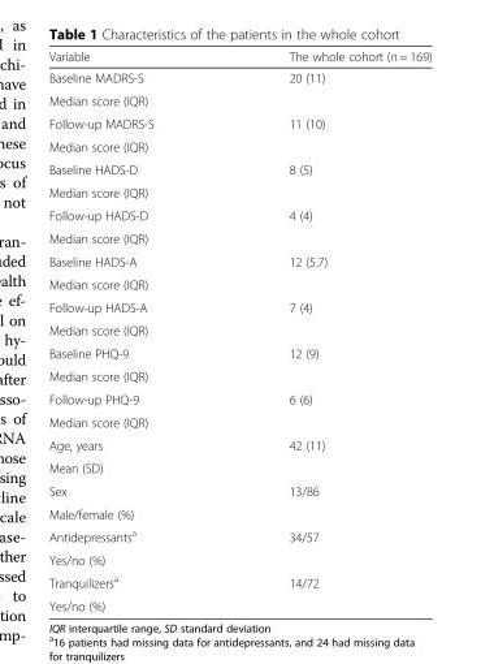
<table><thead><tr><td>Variable</td><td>The whole cohort (n = 169)</td></tr></thead><tbody><tr><td>Baseline MADRS-S</td><td>20 (11)</td></tr><tr><td colspan="2">Median score (IQR)</td></tr><tr><td>Follow-up MADRS-S</td><td>11 (10)</td></tr><tr><td colspan="2">Median score (IQR)</td></tr><tr><td>Baseline HADS-D</td><td>8 (5)</td></tr><tr><td colspan="2">Median score (IQR)</td></tr><tr><td>Follow-up HADS-D</td><td>4 (4)</td></tr><tr><td colspan="2">Median score (IQR)</td></tr><tr><td>Baseline HADS-A</td><td>12 (5.7)</td></tr><tr><td colspan="2">Median score (IQR)</td></tr><tr><td>Follow-up HADS-A</td><td>7 (4)</td></tr><tr><td colspan="2">Median score (IQR)</td></tr><tr><td>Baseline PHQ-9</td><td>12 (9)</td></tr><tr><td colspan="2">Median score (IQR)</td></tr><tr><td>Follow-up PHQ-9</td><td>6 (6)</td></tr><tr><td colspan="2">Median score (IQR)</td></tr><tr><td>Age, years</td><td>42 (11)</td></tr><tr><td colspan="2">Mean (SD)</td></tr><tr><td>Sex</td><td>13/86</td></tr><tr><td colspan="2">Male/female (%)</td></tr><tr><td>Antidepressants<sup>a</sup></td><td>34/57</td></tr><tr><td colspan="2">Yes/no (%)</td></tr><tr><td>Tranquilizers<sup>a</sup></td><td>14/72</td></tr><tr><td>Yes/no (%)</td><td></td></tr></tbody></table>